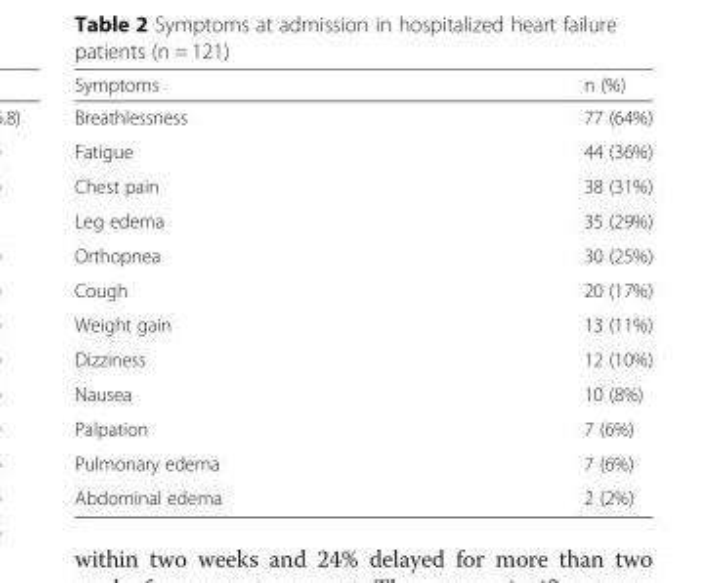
<table><thead><tr><td>Symptoms</td><td>n (%)</td></tr></thead><tbody><tr><td>Breathlessness</td><td>77 (64%)</td></tr><tr><td>Fatigue</td><td>44 (36%)</td></tr><tr><td>Chest pain</td><td>38 (31%)</td></tr><tr><td>Leg edema</td><td>35 (29%)</td></tr><tr><td>Orthopnea</td><td>30 (25%)</td></tr><tr><td>Cough</td><td>20 (17%)</td></tr><tr><td>Weight gain</td><td>13 (11%)</td></tr><tr><td>Dizziness</td><td>12 (10%)</td></tr><tr><td>Nausea</td><td>10 (8%)</td></tr><tr><td>Palpation</td><td>7 (6%)</td></tr><tr><td>Pulmonary edema</td><td>7 (6%)</td></tr><tr><td>Abdominal edema</td><td>2 (2%)</td></tr></tbody></table>